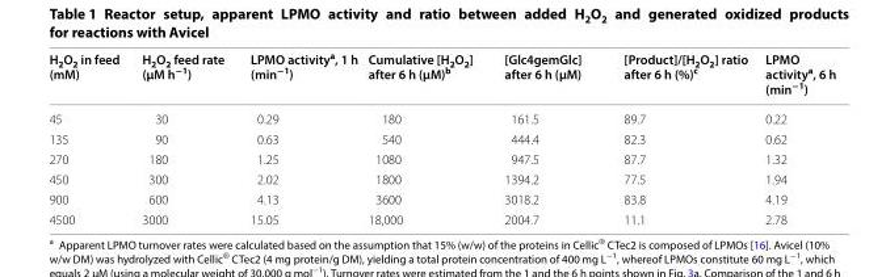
<table><thead><tr><td>H<sub>2</sub>O<sub>2</sub> in feed (mM)</td><td>H<sub>2</sub>O<sub>2</sub> feed rate (µM h<sup>−1</sup>)</td><td>LPMO activity<sup>a</sup>, 1 h (min<sup>−1</sup>)</td><td>Cumulative [H<sub>2</sub>O<sub>2</sub>] after 6 h (µM)<sup>b</sup></td><td>[Glc4gemGlc] after 6 h (µM)</td><td>[Product]/[H<sub>2</sub>O<sub>2</sub>] ratio after 6 h (%)<sup>c</sup></td><td>LPMO activity<sup>a</sup>, 6 h (min<sup>−1</sup>)</td></tr></thead><tbody><tr><td>45</td><td>30</td><td>0.29</td><td>180</td><td>161.5</td><td>89.7</td><td>0.22</td></tr><tr><td>135</td><td>90</td><td>0.63</td><td>540</td><td>444.4</td><td>82.3</td><td>0.62</td></tr><tr><td>270</td><td>180</td><td>1.25</td><td>1080</td><td>947.5</td><td>87.7</td><td>1.32</td></tr><tr><td>450</td><td>300</td><td>2.02</td><td>1800</td><td>1394.2</td><td>77.5</td><td>1.94</td></tr><tr><td>900</td><td>600</td><td>4.13</td><td>3600</td><td>3018.2</td><td>83.8</td><td>4.19</td></tr><tr><td>4500</td><td>3000</td><td>15.05</td><td>18,000</td><td>2004.7</td><td>11.1</td><td>2.78</td></tr></tbody></table>